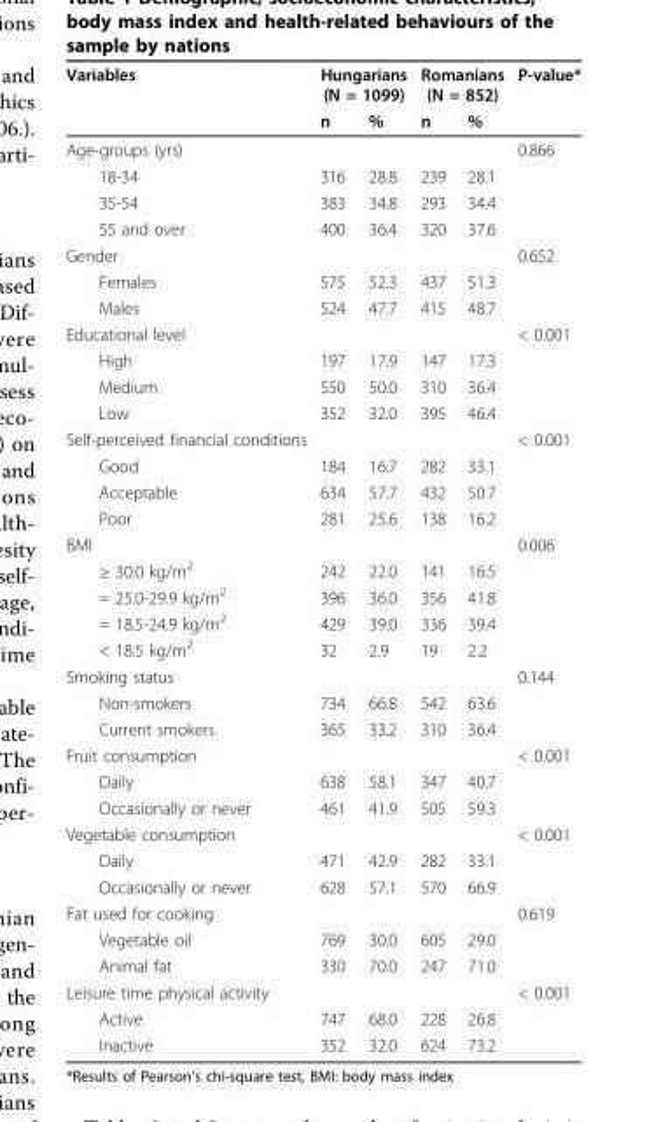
<table><thead><tr><td rowspan="2">Variables</td><td colspan="2">Hungarians (N = 1099)</td><td colspan="2">Romanians (N = 852)</td><td rowspan="2">P-value*</td></tr><tr><td>n</td><td>%</td><td>n</td><td>%</td></tr></thead><tbody><tr><td>Age-groups (yrs)</td><td></td><td></td><td></td><td></td><td>0.866</td></tr><tr><td>18-34</td><td>316</td><td>28.8</td><td>239</td><td>28.1</td><td></td></tr><tr><td>35-54</td><td>383</td><td>34.8</td><td>293</td><td>34.4</td><td></td></tr><tr><td>55 and over</td><td>400</td><td>36.4</td><td>320</td><td>37.6</td><td></td></tr><tr><td>Gender</td><td></td><td></td><td></td><td></td><td>0.652</td></tr><tr><td>Females</td><td>575</td><td>52.3</td><td>437</td><td>51.3</td><td></td></tr><tr><td>Males</td><td>524</td><td>47.7</td><td>415</td><td>48.7</td><td></td></tr><tr><td>Educational level</td><td></td><td></td><td></td><td></td><td>&lt; 0.001</td></tr><tr><td>High</td><td>197</td><td>17.9</td><td>147</td><td>17.3</td><td></td></tr><tr><td>Medium</td><td>550</td><td>50.0</td><td>310</td><td>36.4</td><td></td></tr><tr><td>Low</td><td>352</td><td>32.0</td><td>395</td><td>46.4</td><td></td></tr><tr><td>Self-perceived financial conditions</td><td></td><td></td><td></td><td></td><td>&lt; 0.001</td></tr><tr><td>Good</td><td>184</td><td>16.7</td><td>282</td><td>33.1</td><td></td></tr><tr><td>Acceptable</td><td>634</td><td>57.7</td><td>432</td><td>50.7</td><td></td></tr><tr><td>Poor</td><td>281</td><td>25.6</td><td>138</td><td>16.2</td><td></td></tr><tr><td>BMI</td><td></td><td></td><td></td><td></td><td>0.006</td></tr><tr><td>≥ 30.0 kg/m<sup>2</sup></td><td>242</td><td>22.0</td><td>141</td><td>16.5</td><td></td></tr><tr><td>= 25.0-29.9 kg/m<sup>2</sup></td><td>396</td><td>36.0</td><td>356</td><td>41.8</td><td></td></tr><tr><td>= 18.5-24.9 kg/m<sup>2</sup></td><td>429</td><td>39.0</td><td>336</td><td>39.4</td><td></td></tr><tr><td>&lt; 18.5 kg/m<sup>2</sup></td><td>32</td><td>2.9</td><td>19</td><td>2.2</td><td></td></tr><tr><td>Smoking status</td><td></td><td></td><td></td><td></td><td>0.144</td></tr><tr><td>Non-smokers</td><td>734</td><td>66.8</td><td>542</td><td>63.6</td><td></td></tr><tr><td>Current smokers</td><td>365</td><td>33.2</td><td>310</td><td>36.4</td><td></td></tr><tr><td>Fruit consumption</td><td></td><td></td><td></td><td></td><td>&lt; 0.001</td></tr><tr><td>Daily</td><td>638</td><td>58.1</td><td>347</td><td>40.7</td><td></td></tr><tr><td>Occasionally or never</td><td>461</td><td>41.9</td><td>505</td><td>59.3</td><td></td></tr><tr><td>Vegetable consumption</td><td></td><td></td><td></td><td></td><td>&lt; 0.001</td></tr><tr><td>Daily</td><td>471</td><td>42.9</td><td>282</td><td>33.1</td><td></td></tr><tr><td>Occasionally or never</td><td>628</td><td>57.1</td><td>570</td><td>66.9</td><td></td></tr><tr><td>Fat used for cooking</td><td></td><td></td><td></td><td></td><td>0.619</td></tr><tr><td>Vegetable oil</td><td>769</td><td>30.0</td><td>605</td><td>29.0</td><td></td></tr><tr><td>Animal fat</td><td>330</td><td>70.0</td><td>247</td><td>71.0</td><td></td></tr><tr><td>Leisure time physical activity</td><td></td><td></td><td></td><td></td><td>&lt; 0.001</td></tr><tr><td>Active</td><td>747</td><td>68.0</td><td>228</td><td>26.8</td><td></td></tr><tr><td>Inactive</td><td>352</td><td>32.0</td><td>624</td><td>73.2</td><td></td></tr></tbody></table>